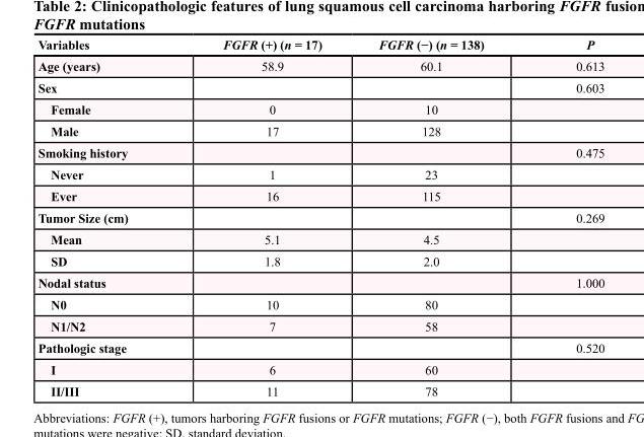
<table><thead><tr><td>Variables</td><td>FGFR (+) (n = 17)</td><td>FGFR (−) (n = 138)</td><td>P</td></tr></thead><tbody><tr><td>Age (years)</td><td>58.9</td><td>60.1</td><td>0.613</td></tr><tr><td>Sex</td><td></td><td></td><td>0.603</td></tr><tr><td>Female</td><td>0</td><td>10</td><td></td></tr><tr><td>Male</td><td>17</td><td>128</td><td></td></tr><tr><td>Smoking history</td><td></td><td></td><td>0.475</td></tr><tr><td>Never</td><td>1</td><td>23</td><td></td></tr><tr><td>Ever</td><td>16</td><td>115</td><td></td></tr><tr><td>Tumor Size (cm)</td><td></td><td></td><td>0.269</td></tr><tr><td>Mean</td><td>5.1</td><td>4.5</td><td></td></tr><tr><td>SD</td><td>1.8</td><td>2.0</td><td></td></tr><tr><td>Nodal status</td><td></td><td></td><td>1.000</td></tr><tr><td>N0</td><td>10</td><td>80</td><td></td></tr><tr><td>N1/N2</td><td>7</td><td>58</td><td></td></tr><tr><td>Pathologic stage</td><td></td><td></td><td>0.520</td></tr><tr><td>I</td><td>6</td><td>60</td><td></td></tr><tr><td>II/III</td><td>11</td><td>78</td><td></td></tr></tbody></table>